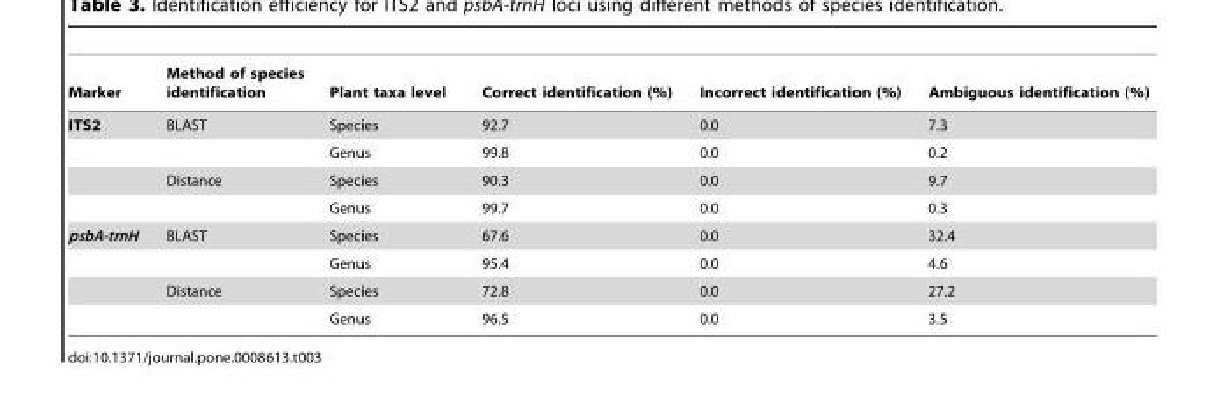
<table><thead><tr><td>Marker</td><td>Method of species identification</td><td>Plant taxa level</td><td>Correct identification (%)</td><td>Incorrect identification (%)</td><td>Ambiguous identification (%)</td></tr></thead><tbody><tr><td rowspan="4">ITS2</td><td>BLAST</td><td>Species</td><td>92.7</td><td>0.0</td><td>7.3</td></tr><tr><td></td><td>Genus</td><td>99.8</td><td>0.0</td><td>0.2</td></tr><tr><td>Distance</td><td>Species</td><td>90.3</td><td>0.0</td><td>9.7</td></tr><tr><td></td><td>Genus</td><td>99.7</td><td>0.0</td><td>0.3</td></tr><tr><td rowspan="4">psbA-trnH</td><td>BLAST</td><td>Species</td><td>67.6</td><td>0.0</td><td>32.4</td></tr><tr><td></td><td>Genus</td><td>95.4</td><td>0.0</td><td>4.6</td></tr><tr><td>Distance</td><td>Species</td><td>72.8</td><td>0.0</td><td>27.2</td></tr><tr><td></td><td>Genus</td><td>96.5</td><td>0.0</td><td>3.5</td></tr></tbody></table>